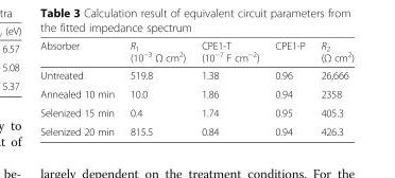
<table><thead><tr><td>Absorber</td><td>R<sub>1</sub> (10<sup>−3</sup> Ω cm<sup>2</sup>)</td><td>CPE1-T (10<sup>−7</sup> F cm<sup>−2</sup>)</td><td>CPE1-P</td><td>R<sub>2</sub> (Ω cm<sup>2</sup>)</td></tr></thead><tbody><tr><td>Untreated</td><td>519.8</td><td>1.38</td><td>0.96</td><td>26,666</td></tr><tr><td>Annealed 10 min</td><td>10.0</td><td>1.86</td><td>0.94</td><td>2358</td></tr><tr><td>Selenized 15 min</td><td>0.4</td><td>1.74</td><td>0.95</td><td>405.3</td></tr><tr><td>Selenized 20 min</td><td>815.5</td><td>0.84</td><td>0.94</td><td>426.3</td></tr></tbody></table>